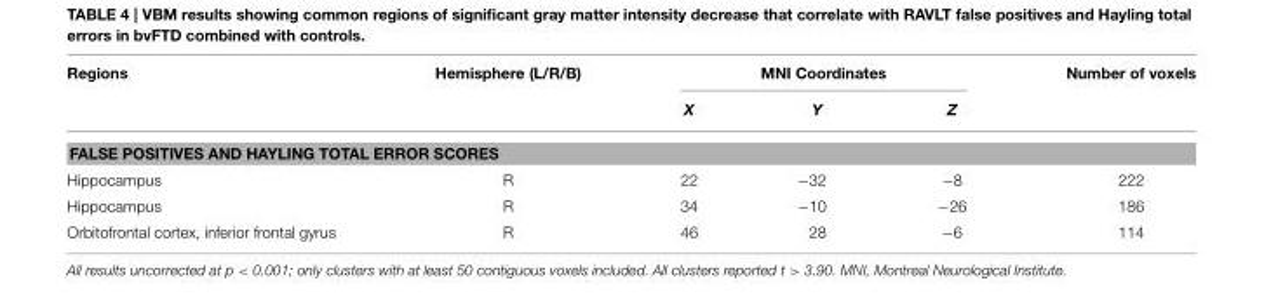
<table><thead><tr><td rowspan="2">Regions</td><td rowspan="2">Hemisphere (L/R/B)</td><td colspan="3">MNI Coordinates</td><td rowspan="2">Number of voxels</td></tr><tr><td>X</td><td>Y</td><td>Z</td></tr></thead><tbody><tr><td colspan="6">FALSE POSITIVES AND HAYLING TOTAL ERROR SCORES</td></tr><tr><td>Hippocampus</td><td>R</td><td>22</td><td>−32</td><td>−8</td><td>222</td></tr><tr><td>Hippocampus</td><td>R</td><td>34</td><td>−10</td><td>−26</td><td>186</td></tr><tr><td>Orbitofrontal cortex, inferior frontal gyrus</td><td>R</td><td>46</td><td>28</td><td>−6</td><td>114</td></tr></tbody></table>